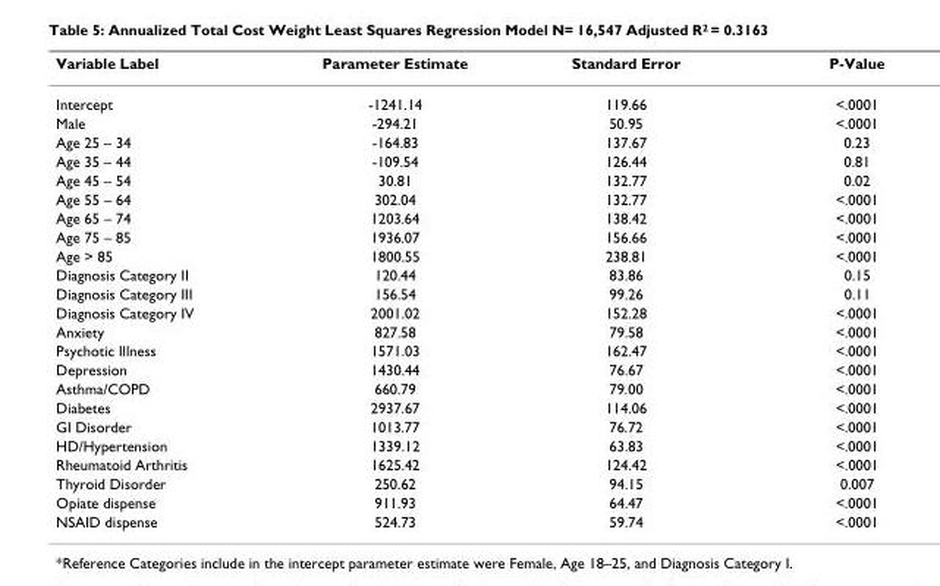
<table><thead><tr><td>Variable Label</td><td>Parameter Estimate</td><td>Standard Error</td><td>P-Value</td></tr></thead><tbody><tr><td>Intercept</td><td>-1241.14</td><td>119.66</td><td>&lt;.0001</td></tr><tr><td>Male</td><td>-294.21</td><td>50.95</td><td>&lt;.0001</td></tr><tr><td>Age 25 – 34</td><td>-164.83</td><td>137.67</td><td>0.23</td></tr><tr><td>Age 35 – 44</td><td>-109.54</td><td>126.44</td><td>0.81</td></tr><tr><td>Age 45 – 54</td><td>30.81</td><td>132.77</td><td>0.02</td></tr><tr><td>Age 55 – 64</td><td>302.04</td><td>132.77</td><td>&lt;.0001</td></tr><tr><td>Age 65 – 74</td><td>1203.64</td><td>138.42</td><td>&lt;.0001</td></tr><tr><td>Age 75 – 85</td><td>1936.07</td><td>156.66</td><td>&lt;.0001</td></tr><tr><td>Age &gt; 85</td><td>1800.55</td><td>238.81</td><td>&lt;.0001</td></tr><tr><td>Diagnosis Category II</td><td>120.44</td><td>83.86</td><td>0.15</td></tr><tr><td>Diagnosis Category III</td><td>156.54</td><td>99.26</td><td>0.11</td></tr><tr><td>Diagnosis Category IV</td><td>2001.02</td><td>152.28</td><td>&lt;.0001</td></tr><tr><td>Anxiety</td><td>827.58</td><td>79.58</td><td>&lt;.0001</td></tr><tr><td>Psychotic Illness</td><td>1571.03</td><td>162.47</td><td>&lt;.0001</td></tr><tr><td>Depression</td><td>1430.44</td><td>76.67</td><td>&lt;.0001</td></tr><tr><td>Asthma/COPD</td><td>660.79</td><td>79.00</td><td>&lt;.0001</td></tr><tr><td>Diabetes</td><td>2937.67</td><td>114.06</td><td>&lt;.0001</td></tr><tr><td>GI Disorder</td><td>1013.77</td><td>76.72</td><td>&lt;.0001</td></tr><tr><td>HD/Hypertension</td><td>1339.12</td><td>63.83</td><td>&lt;.0001</td></tr><tr><td>Rheumatoid Arthritis</td><td>1625.42</td><td>124.42</td><td>&lt;.0001</td></tr><tr><td>Thyroid Disorder</td><td>250.62</td><td>94.15</td><td>0.007</td></tr><tr><td>Opiate dispense</td><td>911.93</td><td>64.47</td><td>&lt;.0001</td></tr><tr><td>NSAID dispense</td><td>524.73</td><td>59.74</td><td>&lt;.0001</td></tr></tbody></table>